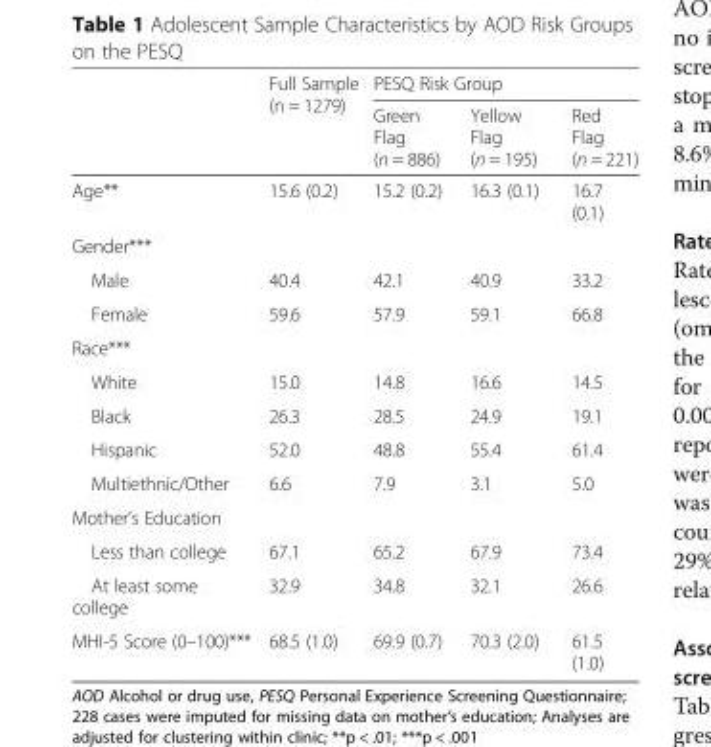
<table><thead><tr><td rowspan="2"></td><td rowspan="2">Full Sample (n = 1279)</td><td colspan="3">PESQ Risk Group</td></tr><tr><td>Green Flag (n = 886)</td><td>Yellow Flag (n = 195)</td><td>Red Flag (n = 221)</td></tr></thead><tbody><tr><td>Age**</td><td>15.6 (0.2)</td><td>15.2 (0.2)</td><td>16.3 (0.1)</td><td>16.7 (0.1)</td></tr><tr><td colspan="5">Gender***</td></tr><tr><td>Male</td><td>40.4</td><td>42.1</td><td>40.9</td><td>33.2</td></tr><tr><td>Female</td><td>59.6</td><td>57.9</td><td>59.1</td><td>66.8</td></tr><tr><td colspan="5">Race***</td></tr><tr><td>White</td><td>15.0</td><td>14.8</td><td>16.6</td><td>14.5</td></tr><tr><td>Black</td><td>26.3</td><td>28.5</td><td>24.9</td><td>19.1</td></tr><tr><td>Hispanic</td><td>52.0</td><td>48.8</td><td>55.4</td><td>61.4</td></tr><tr><td>Multiethnic/Other</td><td>6.6</td><td>7.9</td><td>3.1</td><td>5.0</td></tr><tr><td colspan="5">Mother’s Education</td></tr><tr><td>Less than college</td><td>67.1</td><td>65.2</td><td>67.9</td><td>73.4</td></tr><tr><td>At least some college</td><td>32.9</td><td>34.8</td><td>32.1</td><td>26.6</td></tr><tr><td>MHI-5 Score (0–100)***</td><td>68.5 (1.0)</td><td>69.9 (0.7)</td><td>70.3 (2.0)</td><td>61.5 (1.0)</td></tr></tbody></table>